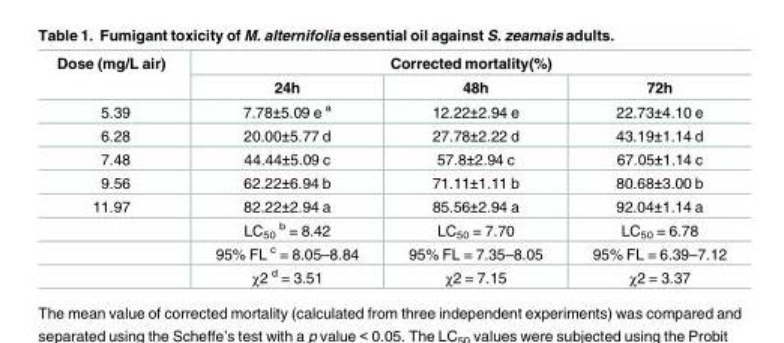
<table><thead><tr><td rowspan="2">Dose (mg/L air)</td><td colspan="3">Corrected mortality(%)</td></tr><tr><td>24h</td><td>48h</td><td>72h</td></tr></thead><tbody><tr><td>5.39</td><td>7.78±5.09 e <sup>a</sup></td><td>12.22±2.94 e</td><td>22.73±4.10 e</td></tr><tr><td>6.28</td><td>20.00±5.77 d</td><td>27.78±2.22 d</td><td>43.19±1.14 d</td></tr><tr><td>7.48</td><td>44.44±5.09 c</td><td>57.8±2.94 c</td><td>67.05±1.14 c</td></tr><tr><td>9.56</td><td>62.22±6.94 b</td><td>71.11±1.11 b</td><td>80.68±3.00 b</td></tr><tr><td rowspan="4">11.97</td><td>82.22±2.94 a</td><td>85.56±2.94 a</td><td>92.04±1.14 a</td></tr><tr><td>LC<sub>50</sub> <sup>b</sup> = 8.42</td><td>LC<sub>50</sub> = 7.70</td><td>LC<sub>50</sub> = 6.78</td></tr><tr><td>95% FL <sup>c</sup> = 8.05–8.84</td><td>95% FL = 7.35–8.05</td><td>95% FL = 6.39–7.12</td></tr><tr><td>χ2 <sup>d</sup> = 3.51</td><td>χ2 = 7.15</td><td>χ2 = 3.37</td></tr></tbody></table>